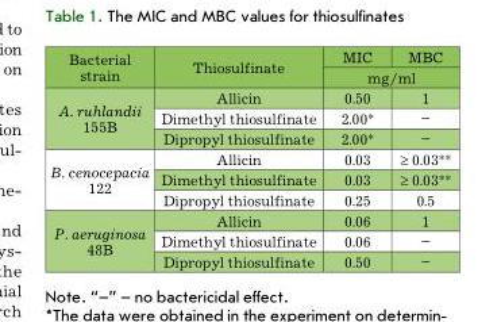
<table><thead><tr><td rowspan="2">Bacterial strain</td><td rowspan="2">Thiosulfinate</td><td>MIC</td><td>MBC</td></tr><tr><td colspan="2">mg/ml</td></tr></thead><tbody><tr><td rowspan="3">A. ruhlandii 155B</td><td>Allicin</td><td>0.50</td><td>1</td></tr><tr><td>Dimethyl thiosulfinate</td><td>2.00*</td><td>–</td></tr><tr><td>Dipropyl thiosulfinate</td><td>2.00*</td><td>–</td></tr><tr><td rowspan="3">B. cenocepacia 122</td><td>Allicin</td><td>0.03</td><td>≥ 0.03**</td></tr><tr><td>Dimethyl thiosulfinate</td><td>0.03</td><td>≥ 0.03**</td></tr><tr><td>Dipropyl thiosulfinate</td><td>0.25</td><td>0.5</td></tr><tr><td rowspan="3">P. aeruginosa 48B</td><td>Allicin</td><td>0.06</td><td>1</td></tr><tr><td>Dimethyl thiosulfinate</td><td>0.06</td><td>–</td></tr><tr><td>Dipropyl thiosulfinate</td><td>0.50</td><td>–</td></tr></tbody></table>